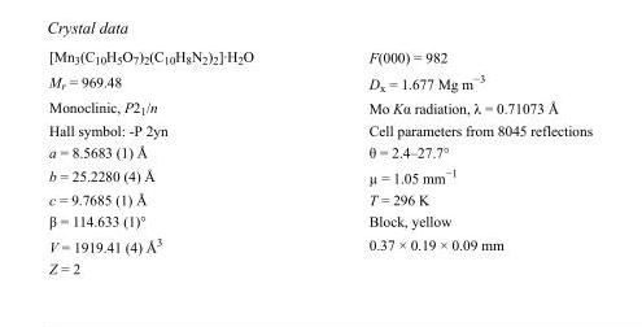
<table><tbody><tr><td>[Mn<sub>3</sub>(C<sub>10</sub>H<sub>5</sub>O<sub>7</sub>)<sub>2</sub>(C<sub>10</sub>H<sub>8</sub>N<sub>2</sub>)<sub>2</sub>]·H<sub>2</sub>O</td><td>F(000) = 982</td></tr><tr><td>M<sub>r</sub> = 969.48</td><td>D<sub>x</sub> = 1.677 Mg m<sup>−3</sup></td></tr><tr><td>Monoclinic, P2<sub>1</sub>/n</td><td>Mo Kα radiation, λ = 0.71073 Å</td></tr><tr><td>Hall symbol: -P 2yn</td><td>Cell parameters from 8045 reflections</td></tr><tr><td>a = 8.5683 (1) Å</td><td>θ = 2.4–27.7°</td></tr><tr><td>b = 25.2280 (4) Å</td><td>µ = 1.05 mm<sup>−1</sup></td></tr><tr><td>c = 9.7685 (1) Å</td><td>T = 296 K</td></tr><tr><td>β = 114.633 (1)°</td><td>Block, yellow</td></tr><tr><td>V = 1919.41 (4) Å<sup>3</sup></td><td>0.37 × 0.19 × 0.09 mm</td></tr><tr><td>Z = 2</td><td></td></tr></tbody></table>